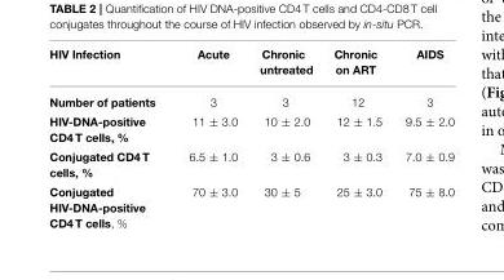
<table><thead><tr><td>HIV Infection</td><td>Acute</td><td>Chronic untreated</td><td>Chronic on ART</td><td>AIDS</td></tr></thead><tbody><tr><td>Number of patients</td><td>3</td><td>3</td><td>12</td><td>3</td></tr><tr><td>HIV-DNA-positive CD4 T cells, %</td><td>11 ± 3.0</td><td>10 ± 2.0</td><td>12 ± 1.5</td><td>9.5 ± 2.0</td></tr><tr><td>Conjugated CD4 T cells, %</td><td>6.5 ± 1.0</td><td>3 ± 0.6</td><td>3 ± 0.3</td><td>7.0 ± 0.9</td></tr><tr><td>Conjugated HIV-DNA-positive CD4 T cells, %</td><td>70 ± 3.0</td><td>30 ± 5</td><td>25 ± 3.0</td><td>75 ± 8.0</td></tr></tbody></table>